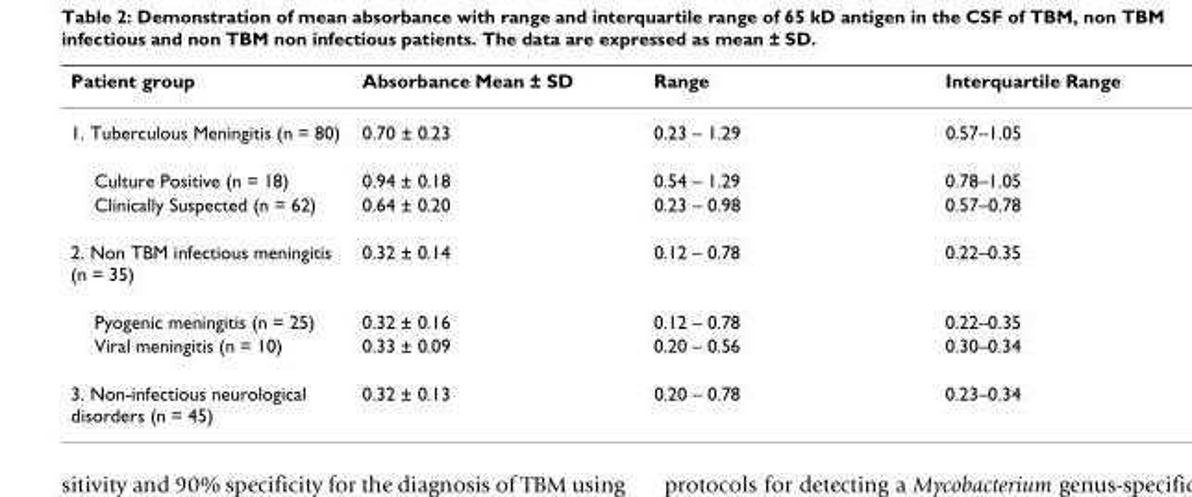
<table><thead><tr><td>Patient group</td><td>Absorbance Mean ± SD</td><td>Range</td><td>Interquartile Range</td></tr></thead><tbody><tr><td>1. Tuberculous Meningitis (n = 80)</td><td>0.70 ± 0.23</td><td>0.23 – 1.29</td><td>0.57–1.05</td></tr><tr><td>Culture Positive (n = 18)</td><td>0.94 ± 0.18</td><td>0.54 – 1.29</td><td>0.78–1.05</td></tr><tr><td>Clinically Suspected (n = 62)</td><td>0.64 ± 0.20</td><td>0.23 – 0.98</td><td>0.57–0.78</td></tr><tr><td>2. Non TBM infectious meningitis (n = 35)</td><td>0.32 ± 0.14</td><td>0.12 – 0.78</td><td>0.22–0.35</td></tr><tr><td>Pyogenic meningitis (n = 25)</td><td>0.32 ± 0.16</td><td>0.12 – 0.78</td><td>0.22–0.35</td></tr><tr><td>Viral meningitis (n = 10)</td><td>0.33 ± 0.09</td><td>0.20 – 0.56</td><td>0.30–0.34</td></tr><tr><td>3. Non-infectious neurological disorders (n = 45)</td><td>0.32 ± 0.13</td><td>0.20 – 0.78</td><td>0.23–0.34</td></tr></tbody></table>